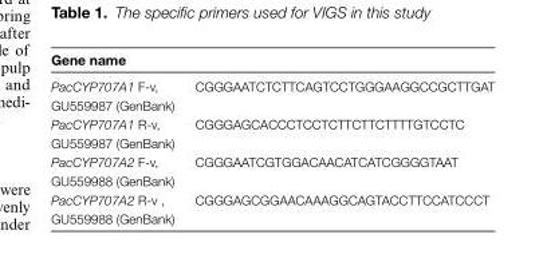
<table><thead><tr><td colspan="2">Gene name</td></tr><tr><td>PacCYP707A1 F-v, GU559987 (GenBank)</td><td>CGGGAATCTCTTCAGTCCTGGGAAGGCCGCTTGAT</td></tr></thead><tbody><tr><td>PacCYP707A1 R-v, GU559987 (GenBank)</td><td>CGGGAGCACCCTCCTCTTCTTCTTTTGTCCTC</td></tr><tr><td>PacCYP707A2 F-v, GU559988 (GenBank)</td><td>CGGGAATCGTGGACAACATCATCGGGGTAAT</td></tr><tr><td>PacCYP707A2 R-v , GU559988 (GenBank)</td><td>CGGGAGCGGAACAAAGGCAGTACCTTCCATCCCT</td></tr></tbody></table>